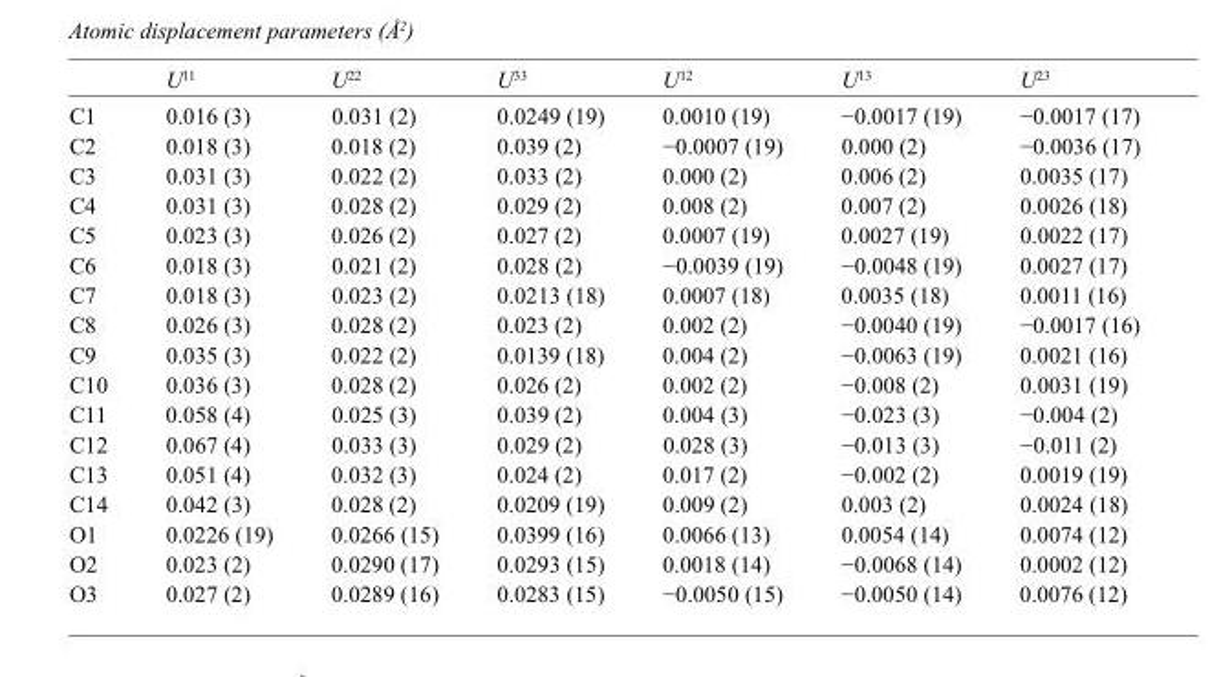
<table><thead><tr><td></td><td>U<sup>11</sup></td><td>U<sup>22</sup></td><td>U<sup>33</sup></td><td>U<sup>12</sup></td><td>U<sup>13</sup></td><td>U<sup>23</sup></td></tr></thead><tbody><tr><td>C1</td><td>0.016 (3)</td><td>0.031 (2)</td><td>0.0249 (19)</td><td>0.0010 (19)</td><td>−0.0017 (19)</td><td>−0.0017 (17)</td></tr><tr><td>C2</td><td>0.018 (3)</td><td>0.018 (2)</td><td>0.039 (2)</td><td>−0.0007 (19)</td><td>0.000 (2)</td><td>−0.0036 (17)</td></tr><tr><td>C3</td><td>0.031 (3)</td><td>0.022 (2)</td><td>0.033 (2)</td><td>0.000 (2)</td><td>0.006 (2)</td><td>0.0035 (17)</td></tr><tr><td>C4</td><td>0.031 (3)</td><td>0.028 (2)</td><td>0.029 (2)</td><td>0.008 (2)</td><td>0.007 (2)</td><td>0.0026 (18)</td></tr><tr><td>C5</td><td>0.023 (3)</td><td>0.026 (2)</td><td>0.027 (2)</td><td>0.0007 (19)</td><td>0.0027 (19)</td><td>0.0022 (17)</td></tr><tr><td>C6</td><td>0.018 (3)</td><td>0.021 (2)</td><td>0.028 (2)</td><td>−0.0039 (19)</td><td>−0.0048 (19)</td><td>0.0027 (17)</td></tr><tr><td>C7</td><td>0.018 (3)</td><td>0.023 (2)</td><td>0.0213 (18)</td><td>0.0007 (18)</td><td>0.0035 (18)</td><td>0.0011 (16)</td></tr><tr><td>C8</td><td>0.026 (3)</td><td>0.028 (2)</td><td>0.023 (2)</td><td>0.002 (2)</td><td>−0.0040 (19)</td><td>−0.0017 (16)</td></tr><tr><td>C9</td><td>0.035 (3)</td><td>0.022 (2)</td><td>0.0139 (18)</td><td>0.004 (2)</td><td>−0.0063 (19)</td><td>0.0021 (16)</td></tr><tr><td>C10</td><td>0.036 (3)</td><td>0.028 (2)</td><td>0.026 (2)</td><td>0.002 (2)</td><td>−0.008 (2)</td><td>0.0031 (19)</td></tr><tr><td>C11</td><td>0.058 (4)</td><td>0.025 (3)</td><td>0.039 (2)</td><td>0.004 (3)</td><td>−0.023 (3)</td><td>−0.004 (2)</td></tr><tr><td>C12</td><td>0.067 (4)</td><td>0.033 (3)</td><td>0.029 (2)</td><td>0.028 (3)</td><td>−0.013 (3)</td><td>−0.011 (2)</td></tr><tr><td>C13</td><td>0.051 (4)</td><td>0.032 (3)</td><td>0.024 (2)</td><td>0.017 (2)</td><td>−0.002 (2)</td><td>0.0019 (19)</td></tr><tr><td>C14</td><td>0.042 (3)</td><td>0.028 (2)</td><td>0.0209 (19)</td><td>0.009 (2)</td><td>0.003 (2)</td><td>0.0024 (18)</td></tr><tr><td>O1</td><td>0.0226 (19)</td><td>0.0266 (15)</td><td>0.0399 (16)</td><td>0.0066 (13)</td><td>0.0054 (14)</td><td>0.0074 (12)</td></tr><tr><td>O2</td><td>0.023 (2)</td><td>0.0290 (17)</td><td>0.0293 (15)</td><td>0.0018 (14)</td><td>−0.0068 (14)</td><td>0.0002 (12)</td></tr><tr><td>O3</td><td>0.027 (2)</td><td>0.0289 (16)</td><td>0.0283 (15)</td><td>−0.0050 (15)</td><td>−0.0050 (14)</td><td>0.0076 (12)</td></tr></tbody></table>